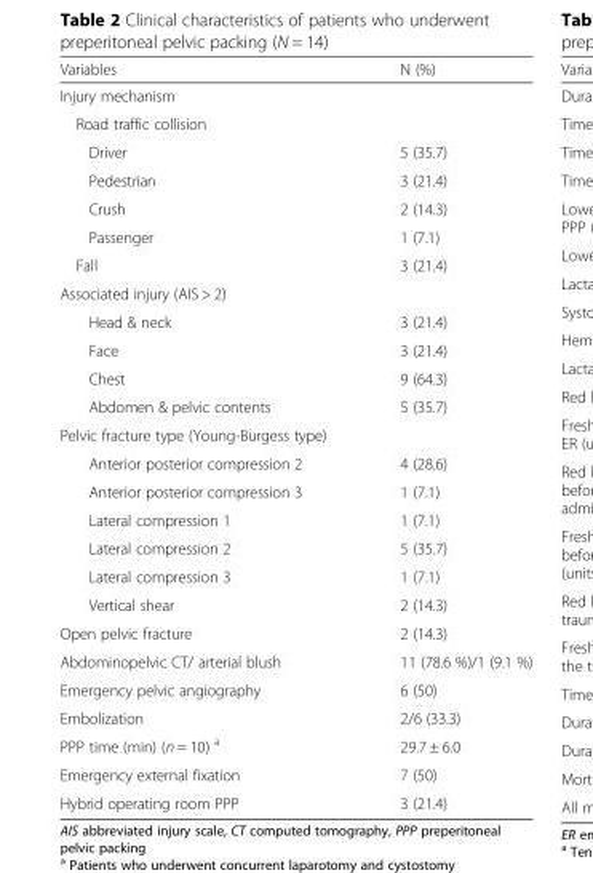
<table><thead><tr><td>Variables</td><td>N (%)</td></tr></thead><tbody><tr><td colspan="2">Injury mechanism</td></tr><tr><td colspan="2">Road traffic collision</td></tr><tr><td>Driver</td><td>5 (35.7)</td></tr><tr><td>Pedestrian</td><td>3 (21.4)</td></tr><tr><td>Crush</td><td>2 (14.3)</td></tr><tr><td>Passenger</td><td>1 (7.1)</td></tr><tr><td>Fall</td><td>3 (21.4)</td></tr><tr><td colspan="2">Associated injury (AIS &gt; 2)</td></tr><tr><td>Head &amp; neck</td><td>3 (21.4)</td></tr><tr><td>Face</td><td>3 (21.4)</td></tr><tr><td>Chest</td><td>9 (64.3)</td></tr><tr><td>Abdomen &amp; pelvic contents</td><td>5 (35.7)</td></tr><tr><td colspan="2">Pelvic fracture type (Young-Burgess type)</td></tr><tr><td>Anterior posterior compression 2</td><td>4 (28.6)</td></tr><tr><td>Anterior posterior compression 3</td><td>1 (7.1)</td></tr><tr><td>Lateral compression 1</td><td>1 (7.1)</td></tr><tr><td>Lateral compression 2</td><td>5 (35.7)</td></tr><tr><td>Lateral compression 3</td><td>1 (7.1)</td></tr><tr><td>Vertical shear</td><td>2 (14.3)</td></tr><tr><td>Open pelvic fracture</td><td>2 (14.3)</td></tr><tr><td>Abdominopelvic CT/ arterial blush</td><td>11 (78.6 %)/1 (9.1 %)</td></tr><tr><td>Emergency pelvic angiography</td><td>6 (50)</td></tr><tr><td>Embolization</td><td>2/6 (33.3)</td></tr><tr><td>PPP time (min) (n = 10) <sup>a</sup></td><td>29.7 ± 6.0</td></tr><tr><td>Emergency external fixation</td><td>7 (50)</td></tr><tr><td>Hybrid operating room PPP</td><td>3 (21.4)</td></tr></tbody></table>